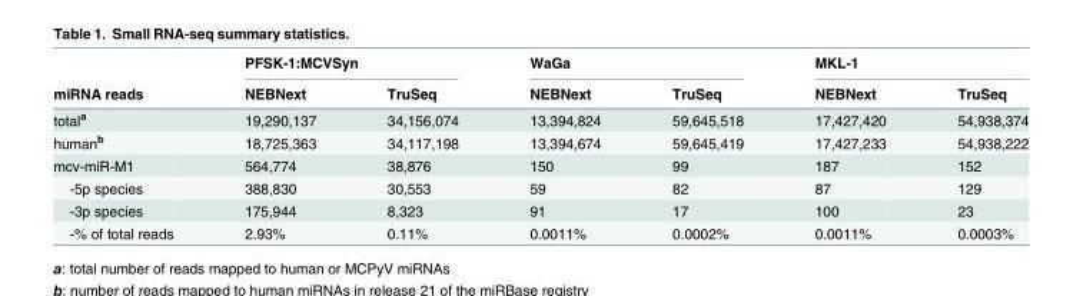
<table><thead><tr><td rowspan="2">miRNA reads</td><td colspan="2">PFSK-1:MCVSyn</td><td colspan="2">WaGa</td><td colspan="2">MKL-1</td></tr><tr><td>NEBNext</td><td>TruSeq</td><td>NEBNext</td><td>TruSeq</td><td>NEBNext</td><td>TruSeq</td></tr></thead><tbody><tr><td>total<sup>a</sup></td><td>19,290,137</td><td>34,156,074</td><td>13,394,824</td><td>59,645,518</td><td>17,427,420</td><td>54,938,374</td></tr><tr><td>human<sup>b</sup></td><td>18,725,363</td><td>34,117,198</td><td>13,394,674</td><td>59,645,419</td><td>17,427,233</td><td>54,938,222</td></tr><tr><td>mcv-miR-M1</td><td>564,774</td><td>38,876</td><td>150</td><td>99</td><td>187</td><td>152</td></tr><tr><td>-5p species</td><td>388,830</td><td>30,553</td><td>59</td><td>82</td><td>87</td><td>129</td></tr><tr><td>-3p species</td><td>175,944</td><td>8,323</td><td>91</td><td>17</td><td>100</td><td>23</td></tr><tr><td>-% of total reads</td><td>2.93%</td><td>0.11%</td><td>0.0011%</td><td>0.0002%</td><td>0.0011%</td><td>0.0003%</td></tr></tbody></table>